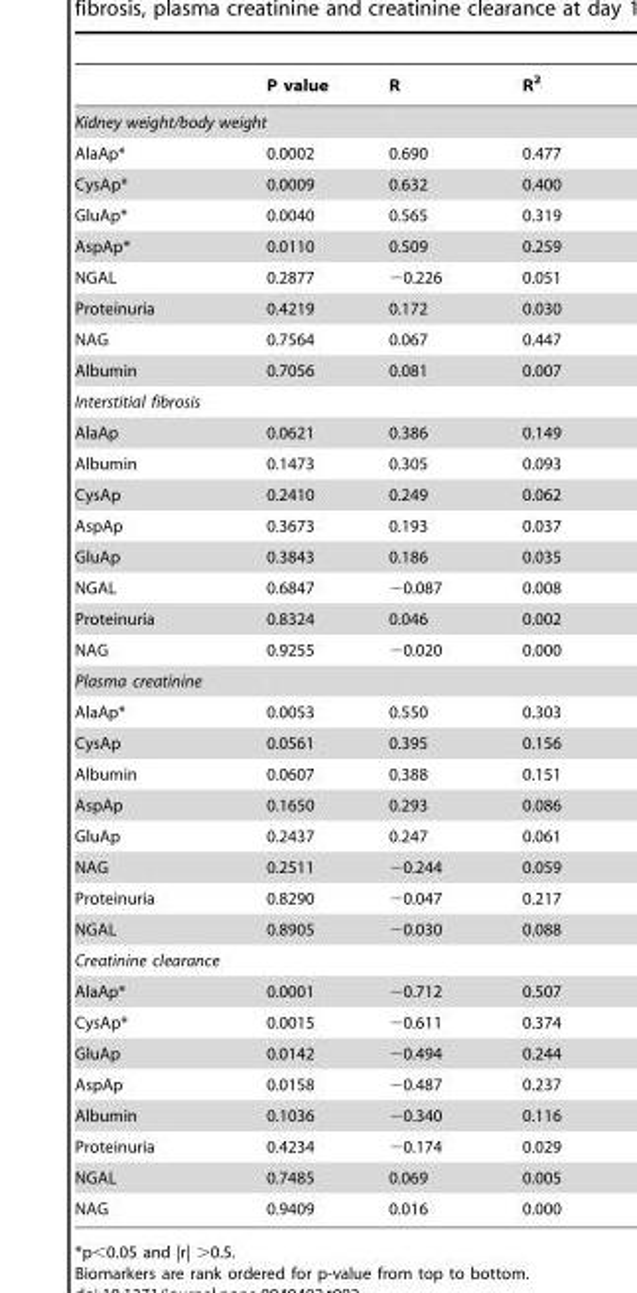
<table><thead><tr><td></td><td>P value</td><td>R</td><td>R<sup>2</sup></td></tr></thead><tbody><tr><td colspan="4">Kidney weight/body weight</td></tr><tr><td>AlaAp*</td><td>0.0002</td><td>0.690</td><td>0.477</td></tr><tr><td>CysAp*</td><td>0.0009</td><td>0.632</td><td>0.400</td></tr><tr><td>GluAp*</td><td>0.0040</td><td>0.565</td><td>0.319</td></tr><tr><td>AspAp*</td><td>0.0110</td><td>0.509</td><td>0.259</td></tr><tr><td>NGAL</td><td>0.2877</td><td>−0.226</td><td>0.051</td></tr><tr><td>Proteinuria</td><td>0.4219</td><td>0.172</td><td>0.030</td></tr><tr><td>NAG</td><td>0.7564</td><td>0.067</td><td>0.447</td></tr><tr><td>Albumin</td><td>0.7056</td><td>0.081</td><td>0.007</td></tr><tr><td colspan="4">Interstitial fibrosis</td></tr><tr><td>AlaAp</td><td>0.0621</td><td>0.386</td><td>0.149</td></tr><tr><td>Albumin</td><td>0.1473</td><td>0.305</td><td>0.093</td></tr><tr><td>CysAp</td><td>0.2410</td><td>0.249</td><td>0.062</td></tr><tr><td>AspAp</td><td>0.3673</td><td>0.193</td><td>0.037</td></tr><tr><td>GluAp</td><td>0.3843</td><td>0.186</td><td>0.035</td></tr><tr><td>NGAL</td><td>0.6847</td><td>−0.087</td><td>0.008</td></tr><tr><td>Proteinuria</td><td>0.8324</td><td>0.046</td><td>0.002</td></tr><tr><td>NAG</td><td>0.9255</td><td>−0.020</td><td>0.000</td></tr><tr><td colspan="4">Plasma creatinine</td></tr><tr><td>AlaAp*</td><td>0.0053</td><td>0.550</td><td>0.303</td></tr><tr><td>CysAp</td><td>0.0561</td><td>0.395</td><td>0.156</td></tr><tr><td>Albumin</td><td>0.0607</td><td>0.388</td><td>0.151</td></tr><tr><td>AspAp</td><td>0.1650</td><td>0.293</td><td>0.086</td></tr><tr><td>GluAp</td><td>0.2437</td><td>0.247</td><td>0.061</td></tr><tr><td>NAG</td><td>0.2511</td><td>−0.244</td><td>0.059</td></tr><tr><td>Proteinuria</td><td>0.8290</td><td>−0.047</td><td>0.217</td></tr><tr><td>NGAL</td><td>0.8905</td><td>−0.030</td><td>0.088</td></tr><tr><td colspan="4">Creatinine clearance</td></tr><tr><td>AlaAp*</td><td>0.0001</td><td>−0.712</td><td>0.507</td></tr><tr><td>CysAp*</td><td>0.0015</td><td>−0.611</td><td>0.374</td></tr><tr><td>GluAp</td><td>0.0142</td><td>−0.494</td><td>0.244</td></tr><tr><td>AspAp</td><td>0.0158</td><td>−0.487</td><td>0.237</td></tr><tr><td>Albumin</td><td>0.1036</td><td>−0.340</td><td>0.116</td></tr><tr><td>Proteinuria</td><td>0.4234</td><td>−0.174</td><td>0.029</td></tr><tr><td>NGAL</td><td>0.7485</td><td>0.069</td><td>0.005</td></tr><tr><td>NAG</td><td>0.9409</td><td>0.016</td><td>0.000</td></tr></tbody></table>